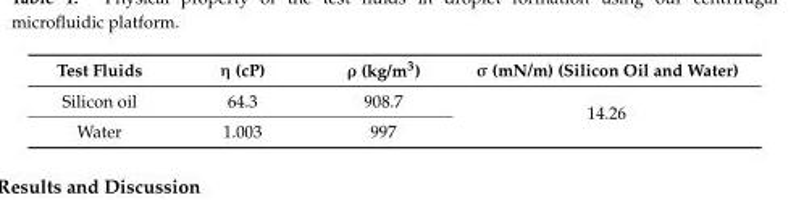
<table><thead><tr><td>Test Fluids</td><td>η (cP)</td><td>ρ (kg/m<sup>3</sup>)</td><td>σ (mN/m) (Silicon Oil and Water)</td></tr></thead><tbody><tr><td>Silicon oil</td><td>64.3</td><td>908.7</td><td rowspan="2">14.26</td></tr><tr><td>Water</td><td>1.003</td><td>997</td></tr></tbody></table>